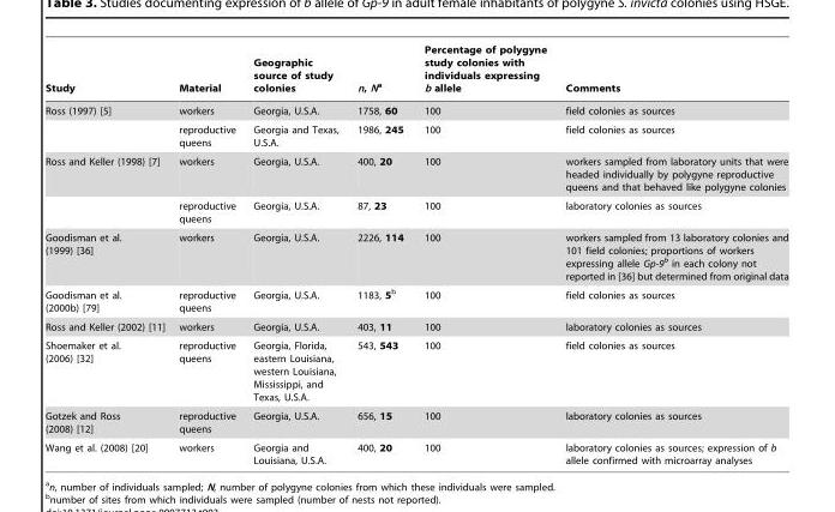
<table><thead><tr><td>Study</td><td>Material</td><td>Geographic source of study colonies</td><td>n, Na</td><td>Percentage of polygyne study colonies with individuals expressing b allele</td><td>Comments</td></tr></thead><tbody><tr><td rowspan="2">Ross (1997) [5]</td><td>workers</td><td>Georgia, U.S.A.</td><td>1758, 60</td><td>100</td><td>field colonies as sources</td></tr><tr><td>reproductive queens</td><td>Georgia and Texas, U.S.A.</td><td>1986, 245</td><td>100</td><td>field colonies as sources</td></tr><tr><td rowspan="2">Ross and Keller (1998) [7]</td><td>workers</td><td>Georgia, U.S.A.</td><td>400, 20</td><td>100</td><td>workers sampled from laboratory units that were headed individually by polygyne reproductive queens and that behaved like polygyne colonies</td></tr><tr><td>reproductive queens</td><td>Georgia, U.S.A.</td><td>87, 23</td><td>100</td><td>laboratory colonies as sources</td></tr><tr><td>Goodisman et al. (1999) [36]</td><td>workers</td><td>Georgia, U.S.A.</td><td>2226, 114</td><td>100</td><td>workers sampled from 13 laboratory colonies and 101 field colonies; proportions of workers expressing allele Gp-9b in each colony not reported in [36] but determined from original data</td></tr><tr><td>Goodisman et al. (2000b) [79]</td><td>reproductive queens</td><td>Georgia, U.S.A.</td><td>1183, 5b</td><td>100</td><td>field colonies as sources</td></tr><tr><td>Ross and Keller (2002) [11]</td><td>workers</td><td>Georgia, U.S.A.</td><td>403, 11</td><td>100</td><td>laboratory colonies as sources</td></tr><tr><td>Shoemaker et al. (2006) [32]</td><td>reproductive queens</td><td>Georgia, Florida, eastern Louisiana, western Louisiana, Mississippi, and Texas, U.S.A.</td><td>543, 543</td><td>100</td><td>field colonies as sources</td></tr><tr><td>Gotzek and Ross (2008) [12]</td><td>reproductive queens</td><td>Georgia, U.S.A.</td><td>656, 15</td><td>100</td><td>laboratory colonies as sources</td></tr><tr><td>Wang et al. (2008) [20]</td><td>workers</td><td>Georgia and Louisiana, U.S.A.</td><td>400, 20</td><td>100</td><td>laboratory colonies as sources; expression of b allele confirmed with microarray analyses</td></tr></tbody></table>